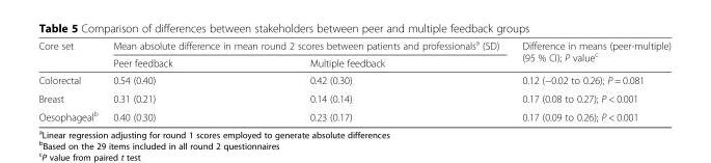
<table><thead><tr><td rowspan="2">Core set</td><td colspan="2">Mean absolute difference in mean round 2 scores between patients and professionals<sup>a</sup> (SD)</td><td rowspan="2">Difference in means (peer-multiple) (95 % CI); P value<sup>c</sup></td></tr><tr><td>Peer feedback</td><td>Multiple feedback</td></tr></thead><tbody><tr><td>Colorectal</td><td>0.54 (0.40)</td><td>0.42 (0.30)</td><td>0.12 (−0.02 to 0.26); P = 0.081</td></tr><tr><td>Breast</td><td>0.31 (0.21)</td><td>0.14 (0.14)</td><td>0.17 (0.08 to 0.27); P &lt; 0.001</td></tr><tr><td>Oesophageal<sup>b</sup></td><td>0.40 (0.30)</td><td>0.23 (0.17)</td><td>0.17 (0.09 to 0.26); P &lt; 0.001</td></tr></tbody></table>